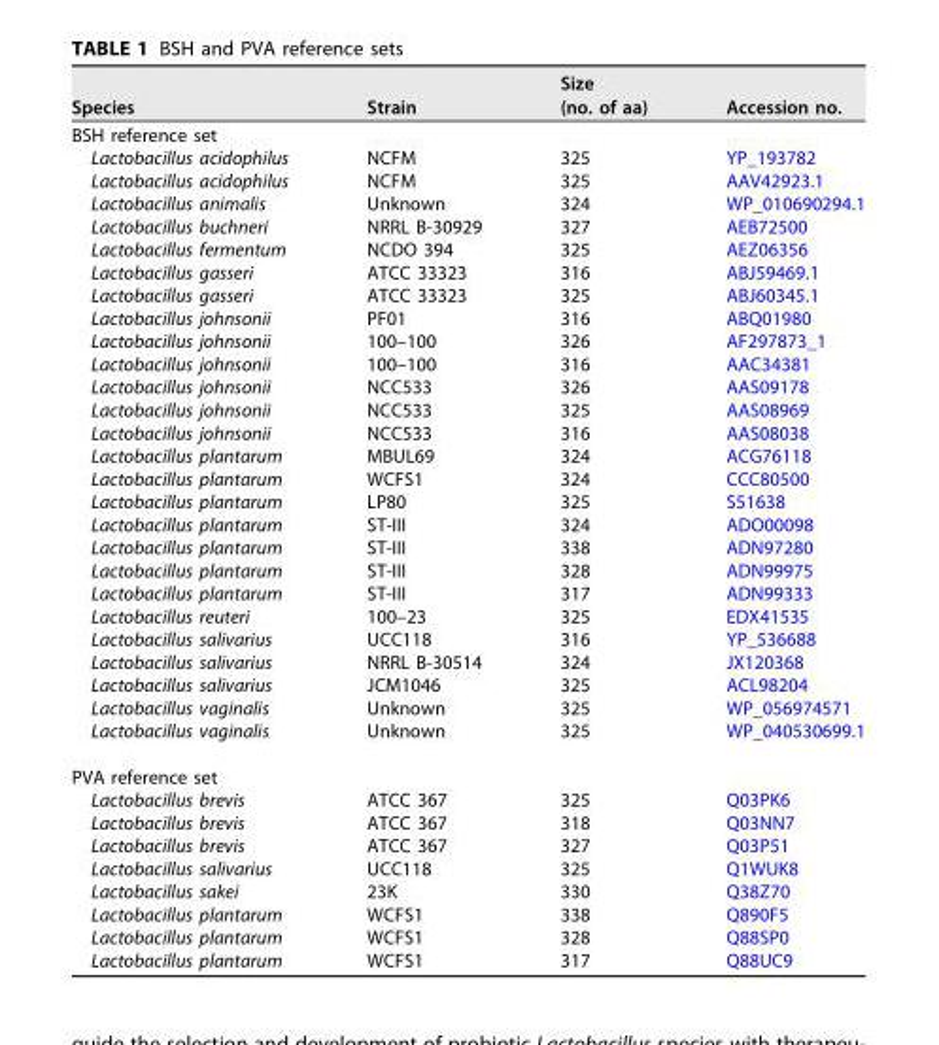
<table><thead><tr><td>Species</td><td>Strain</td><td>Size (no. of aa)</td><td>Accession no.</td></tr></thead><tbody><tr><td colspan="4">BSH reference set</td></tr><tr><td>Lactobacillus acidophilus</td><td>NCFM</td><td>325</td><td>YP_193782</td></tr><tr><td>Lactobacillus acidophilus</td><td>NCFM</td><td>325</td><td>AAV42923.1</td></tr><tr><td>Lactobacillus animalis</td><td>Unknown</td><td>324</td><td>WP_010690294.1</td></tr><tr><td>Lactobacillus buchneri</td><td>NRRL B-30929</td><td>327</td><td>AEB72500</td></tr><tr><td>Lactobacillus fermentum</td><td>NCDO 394</td><td>325</td><td>AEZ06356</td></tr><tr><td>Lactobacillus gasseri</td><td>ATCC 33323</td><td>316</td><td>ABJ59469.1</td></tr><tr><td>Lactobacillus gasseri</td><td>ATCC 33323</td><td>325</td><td>ABJ60345.1</td></tr><tr><td>Lactobacillus johnsonii</td><td>PF01</td><td>316</td><td>ABQ01980</td></tr><tr><td>Lactobacillus johnsonii</td><td>100–100</td><td>326</td><td>AF297873_1</td></tr><tr><td>Lactobacillus johnsonii</td><td>100–100</td><td>316</td><td>AAC34381</td></tr><tr><td>Lactobacillus johnsonii</td><td>NCC533</td><td>326</td><td>AAS09178</td></tr><tr><td>Lactobacillus johnsonii</td><td>NCC533</td><td>325</td><td>AAS08969</td></tr><tr><td>Lactobacillus johnsonii</td><td>NCC533</td><td>316</td><td>AAS08038</td></tr><tr><td>Lactobacillus plantarum</td><td>MBUL69</td><td>324</td><td>ACG76118</td></tr><tr><td>Lactobacillus plantarum</td><td>WCFS1</td><td>324</td><td>CCC80500</td></tr><tr><td>Lactobacillus plantarum</td><td>LP80</td><td>325</td><td>S51638</td></tr><tr><td>Lactobacillus plantarum</td><td>ST-III</td><td>324</td><td>ADO00098</td></tr><tr><td>Lactobacillus plantarum</td><td>ST-III</td><td>338</td><td>ADN97280</td></tr><tr><td>Lactobacillus plantarum</td><td>ST-III</td><td>328</td><td>ADN99975</td></tr><tr><td>Lactobacillus plantarum</td><td>ST-III</td><td>317</td><td>ADN99333</td></tr><tr><td>Lactobacillus reuteri</td><td>100–23</td><td>325</td><td>EDX41535</td></tr><tr><td>Lactobacillus salivarius</td><td>UCC118</td><td>316</td><td>YP_536688</td></tr><tr><td>Lactobacillus salivarius</td><td>NRRL B-30514</td><td>324</td><td>JX120368</td></tr><tr><td>Lactobacillus salivarius</td><td>JCM1046</td><td>325</td><td>ACL98204</td></tr><tr><td>Lactobacillus vaginalis</td><td>Unknown</td><td>325</td><td>WP_056974571</td></tr><tr><td>Lactobacillus vaginalis</td><td>Unknown</td><td>325</td><td>WP_040530699.1</td></tr><tr><td colspan="4">PVA reference set</td></tr><tr><td>Lactobacillus brevis</td><td>ATCC 367</td><td>325</td><td>Q03PK6</td></tr><tr><td>Lactobacillus brevis</td><td>ATCC 367</td><td>318</td><td>Q03NN7</td></tr><tr><td>Lactobacillus brevis</td><td>ATCC 367</td><td>327</td><td>Q03P51</td></tr><tr><td>Lactobacillus salivarius</td><td>UCC118</td><td>325</td><td>Q1WUK8</td></tr><tr><td>Lactobacillus sakei</td><td>23K</td><td>330</td><td>Q38Z70</td></tr><tr><td>Lactobacillus plantarum</td><td>WCFS1</td><td>338</td><td>Q890F5</td></tr><tr><td>Lactobacillus plantarum</td><td>WCFS1</td><td>328</td><td>Q88SP0</td></tr><tr><td>Lactobacillus plantarum</td><td>WCFS1</td><td>317</td><td>Q88UC9</td></tr></tbody></table>